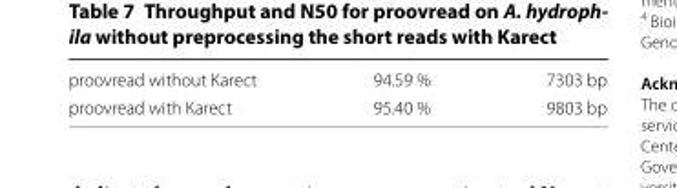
<table><tbody><tr><td>proovread without Karect</td><td>94.59 %</td><td>7303 bp</td></tr><tr><td>proovread with Karect</td><td>95.40 %</td><td>9803 bp</td></tr></tbody></table>